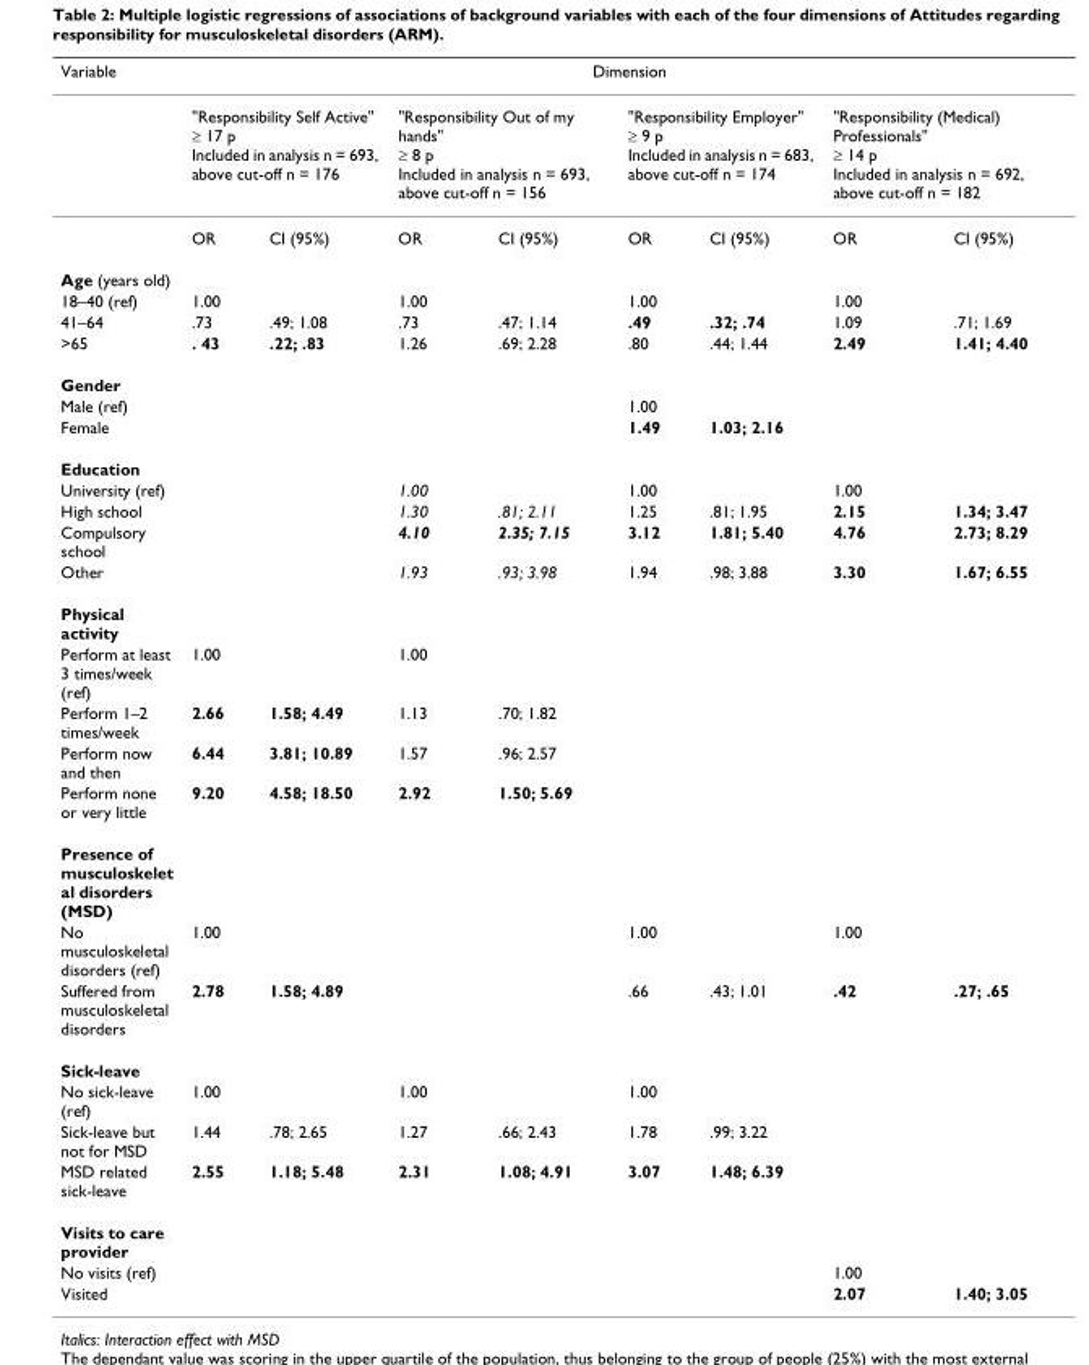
<table><thead><tr><td rowspan="3">Variable</td><td colspan="8">Dimension</td></tr><tr><td colspan="2">&quot;Responsibility Self Active&quot; ≥ 17 p Included in analysis n = 693, above cut-off n = 176</td><td colspan="2">&quot;Responsibility Out of my hands&quot; ≥ 8 p Included in analysis n = 693, above cut-off n = 156</td><td colspan="2">&quot;Responsibility Employer&quot; ≥ 9 p Included in analysis n = 683, above cut-off n = 174</td><td colspan="2">&quot;Responsibility (Medical) Professionals&quot; ≥ 14 p Included in analysis n = 692, above cut-off n = 182</td></tr><tr><td>OR</td><td>CI (95%)</td><td>OR</td><td>CI (95%)</td><td>OR</td><td>CI (95%)</td><td>OR</td><td>CI (95%)</td></tr></thead><tbody><tr><td colspan="9">Age (years old)</td></tr><tr><td>18–40 (ref)</td><td>1.00</td><td></td><td>1.00</td><td></td><td>1.00</td><td></td><td>1.00</td><td></td></tr><tr><td>41–64</td><td>.73</td><td>.49; 1.08</td><td>.73</td><td>.47; 1.14</td><td>.49</td><td>.32; .74</td><td>1.09</td><td>.71; 1.69</td></tr><tr><td>&gt;65</td><td>. 43</td><td>.22; .83</td><td>1.26</td><td>.69; 2.28</td><td>.80</td><td>.44; 1.44</td><td>2.49</td><td>1.41; 4.40</td></tr><tr><td colspan="9">Gender</td></tr><tr><td>Male (ref)</td><td></td><td></td><td></td><td></td><td>1.00</td><td></td><td></td><td></td></tr><tr><td>Female</td><td></td><td></td><td></td><td></td><td>1.49</td><td>1.03; 2.16</td><td></td><td></td></tr><tr><td colspan="9">Education</td></tr><tr><td>University (ref)</td><td></td><td></td><td>1.00</td><td></td><td>1.00</td><td></td><td>1.00</td><td></td></tr><tr><td>High school</td><td></td><td></td><td>1.30</td><td>.81; 2.11</td><td>1.25</td><td>.81; 1.95</td><td>2.15</td><td>1.34; 3.47</td></tr><tr><td>Compulsory school</td><td></td><td></td><td>4.10</td><td>2.35; 7.15</td><td>3.12</td><td>1.81; 5.40</td><td>4.76</td><td>2.73; 8.29</td></tr><tr><td>Other</td><td></td><td></td><td>1.93</td><td>.93; 3.98</td><td>1.94</td><td>.98; 3.88</td><td>3.30</td><td>1.67; 6.55</td></tr><tr><td colspan="9">Physical activity</td></tr><tr><td>Perform at least 3 times/week (ref)</td><td>1.00</td><td></td><td>1.00</td><td></td><td></td><td></td><td></td><td></td></tr><tr><td>Perform 1–2 times/week</td><td>2.66</td><td>1.58; 4.49</td><td>1.13</td><td>.70; 1.82</td><td></td><td></td><td></td><td></td></tr><tr><td>Perform now and then</td><td>6.44</td><td>3.81; 10.89</td><td>1.57</td><td>.96; 2.57</td><td></td><td></td><td></td><td></td></tr><tr><td>Perform none or very little</td><td>9.20</td><td>4.58; 18.50</td><td>2.92</td><td>1.50; 5.69</td><td></td><td></td><td></td><td></td></tr><tr><td colspan="9">Presence of musculoskelet al disorders (MSD)</td></tr><tr><td>No musculoskeletal disorders (ref)</td><td>1.00</td><td></td><td></td><td></td><td>1.00</td><td></td><td>1.00</td><td></td></tr><tr><td>Suffered from musculoskeletal disorders</td><td>2.78</td><td>1.58; 4.89</td><td></td><td></td><td>.66</td><td>.43; 1.01</td><td>.42</td><td>.27; .65</td></tr><tr><td colspan="9">Sick-leave</td></tr><tr><td>No sick-leave (ref)</td><td>1.00</td><td></td><td>1.00</td><td></td><td>1.00</td><td></td><td></td><td></td></tr><tr><td>Sick-leave but not for MSD</td><td>1.44</td><td>.78; 2.65</td><td>1.27</td><td>.66; 2.43</td><td>1.78</td><td>.99; 3.22</td><td></td><td></td></tr><tr><td>MSD related sick-leave</td><td>2.55</td><td>1.18; 5.48</td><td>2.31</td><td>1.08; 4.91</td><td>3.07</td><td>1.48; 6.39</td><td></td><td></td></tr><tr><td colspan="9">Visits to care provider</td></tr><tr><td>No visits (ref)</td><td></td><td></td><td></td><td></td><td></td><td></td><td>1.00</td><td></td></tr><tr><td>Visited</td><td></td><td></td><td></td><td></td><td></td><td></td><td>2.07</td><td>1.40; 3.05</td></tr></tbody></table>